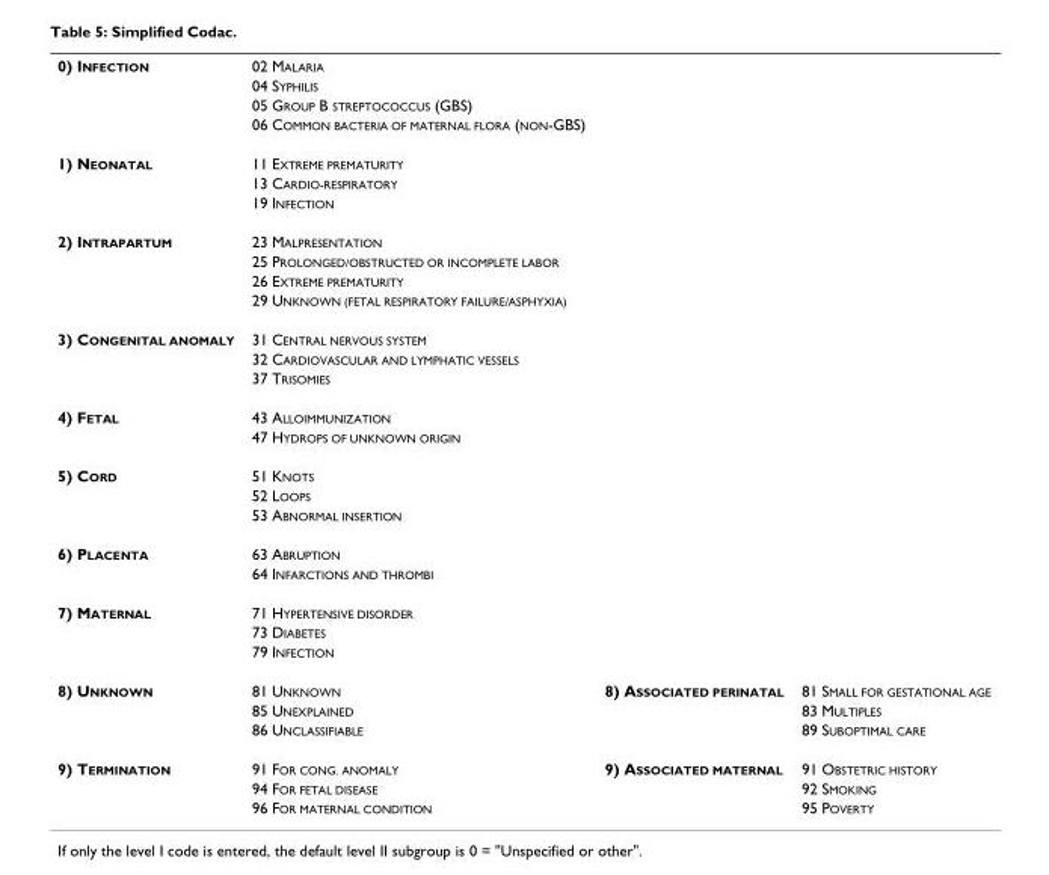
<table><tbody><tr><td rowspan="4">0) INFECTION</td><td>02 MALARIA</td><td></td><td></td></tr><tr><td>04 SYPHILIS</td><td></td><td></td></tr><tr><td>05 GROUP B STREPTOCOCCUS (GBS)</td><td></td><td></td></tr><tr><td>06 COMMON BACTERIA OF MATERNAL FLORA (NON-GBS)</td><td></td><td></td></tr><tr><td rowspan="3">1) NEONATAL</td><td>11 EXTREME PREMATURITY</td><td></td><td></td></tr><tr><td>13 CARDIO-RESPIRATORY</td><td></td><td></td></tr><tr><td>19 INFECTION</td><td></td><td></td></tr><tr><td rowspan="4">2) INTRAPARTUM</td><td>23 MALPRESENTATION</td><td></td><td></td></tr><tr><td>25 PROLONGED/OBSTRUCTED OR INCOMPLETE LABOR</td><td></td><td></td></tr><tr><td>26 EXTREME PREMATURITY</td><td></td><td></td></tr><tr><td>29 UNKNOWN (FETAL RESPIRATORY FAILURE/ASPHYXIA)</td><td></td><td></td></tr><tr><td rowspan="3">3) CONGENITAL ANOMALY</td><td>31 CENTRAL NERVOUS SYSTEM</td><td></td><td></td></tr><tr><td>32 CARDIOVASCULAR AND LYMPHATIC VESSELS</td><td></td><td></td></tr><tr><td>37 TRISOMIES</td><td></td><td></td></tr><tr><td rowspan="2">4) FETAL</td><td>43 ALLOIMMUNIZATION</td><td></td><td></td></tr><tr><td>47 HYDROPS OF UNKNOWN ORIGIN</td><td></td><td></td></tr><tr><td rowspan="3">5) CORD</td><td>51 KNOTS</td><td></td><td></td></tr><tr><td>52 LOOPS</td><td></td><td></td></tr><tr><td>53 ABNORMAL INSERTION</td><td></td><td></td></tr><tr><td rowspan="2">6) PLACENTA</td><td>63 ABRUPTION</td><td></td><td></td></tr><tr><td>64 INFARCTIONS AND THROMBI</td><td></td><td></td></tr><tr><td rowspan="3">7) MATERNAL</td><td>71 HYPERTENSIVE DISORDER</td><td></td><td></td></tr><tr><td>73 DIABETES</td><td></td><td></td></tr><tr><td>79 INFECTION</td><td></td><td></td></tr><tr><td rowspan="3">8) UNKNOWN</td><td>81 UNKNOWN</td><td>8) ASSOCIATED PERINATAL</td><td>81 SMALL FOR GESTATIONAL AGE</td></tr><tr><td>85 UNEXPLAINED</td><td></td><td>83 MULTIPLES</td></tr><tr><td>86 UNCLASSIFIABLE</td><td></td><td>89 SUBOPTIMAL CARE</td></tr><tr><td rowspan="3">9) TERMINATION</td><td>91 FOR CONG. ANOMALY</td><td>9) ASSOCIATED MATERNAL</td><td>91 OBSTETRIC HISTORY</td></tr><tr><td>94 FOR FETAL DISEASE</td><td></td><td>92 SMOKING</td></tr><tr><td>96 FOR MATERNAL CONDITION</td><td></td><td>95 POVERTY</td></tr></tbody></table>